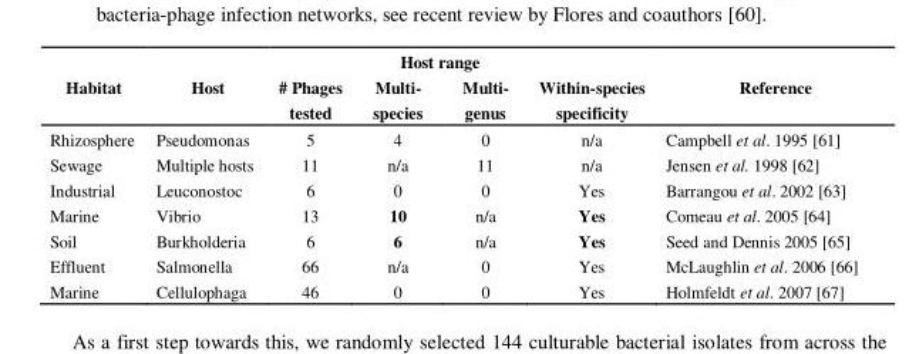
<table><thead><tr><td rowspan="2">Habitat</td><td rowspan="2">Host</td><td rowspan="2"># Phages tested</td><td colspan="2">Host range</td><td rowspan="2">Within-species specificity</td><td rowspan="2">Reference</td></tr><tr><td>Multi- species</td><td>Multi- genus</td></tr></thead><tbody><tr><td>Rhizosphere</td><td>Pseudomonas</td><td>5</td><td>4</td><td>0</td><td>n/a</td><td>Campbell et al. 1995 [61]</td></tr><tr><td>Sewage</td><td>Multiple hosts</td><td>11</td><td>n/a</td><td>11</td><td>n/a</td><td>Jensen et al. 1998 [62]</td></tr><tr><td>Industrial</td><td>Leuconostoc</td><td>6</td><td>0</td><td>0</td><td>Yes</td><td>Barrangou et al. 2002 [63]</td></tr><tr><td>Marine</td><td>Vibrio</td><td>13</td><td>10</td><td>n/a</td><td>Yes</td><td>Comeau et al. 2005 [64]</td></tr><tr><td>Soil</td><td>Burkholderia</td><td>6</td><td>6</td><td>n/a</td><td>Yes</td><td>Seed and Dennis 2005 [65]</td></tr><tr><td>Effluent</td><td>Salmonella</td><td>66</td><td>n/a</td><td>0</td><td>Yes</td><td>McLaughlin et al. 2006 [66]</td></tr><tr><td>Marine</td><td>Cellulophaga</td><td>46</td><td>0</td><td>0</td><td>Yes</td><td>Holmfeldt et al. 2007 [67]</td></tr></tbody></table>